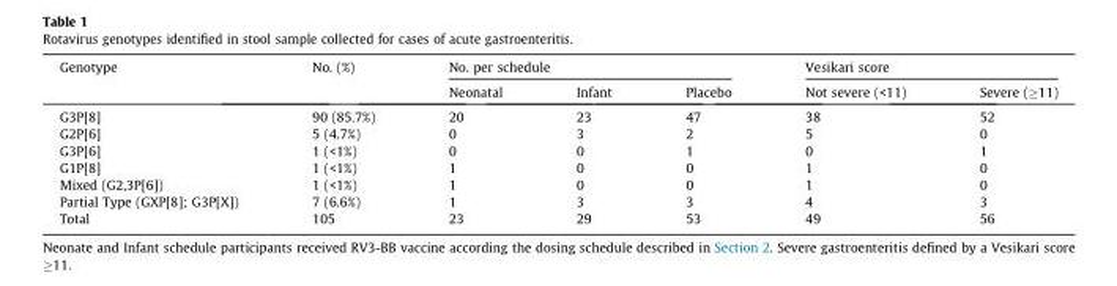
<table><thead><tr><td rowspan="2">Genotype</td><td rowspan="2">No. (%)</td><td colspan="3">No. per schedule</td><td colspan="2">Vesikari score</td></tr><tr><td>Neonatal</td><td>Infant</td><td>Placebo</td><td>Not severe (&lt;11)</td><td>Severe (≥11)</td></tr></thead><tbody><tr><td>G3P[8]</td><td>90 (85.7%)</td><td>20</td><td>23</td><td>47</td><td>38</td><td>52</td></tr><tr><td>G2P[6]</td><td>5 (4.7%)</td><td>0</td><td>3</td><td>2</td><td>5</td><td>0</td></tr><tr><td>G3P[6]</td><td>1 (&lt;1%)</td><td>0</td><td>0</td><td>1</td><td>0</td><td>1</td></tr><tr><td>G1P[8]</td><td>1 (&lt;1%)</td><td>1</td><td>0</td><td>0</td><td>1</td><td>0</td></tr><tr><td>Mixed (G2,3P[6])</td><td>1 (&lt;1%)</td><td>1</td><td>0</td><td>0</td><td>1</td><td>0</td></tr><tr><td>Partial Type (GXP[8]; G3P[X])</td><td>7 (6.6%)</td><td>1</td><td>3</td><td>3</td><td>4</td><td>3</td></tr><tr><td>Total</td><td>105</td><td>23</td><td>29</td><td>53</td><td>49</td><td>56</td></tr></tbody></table>